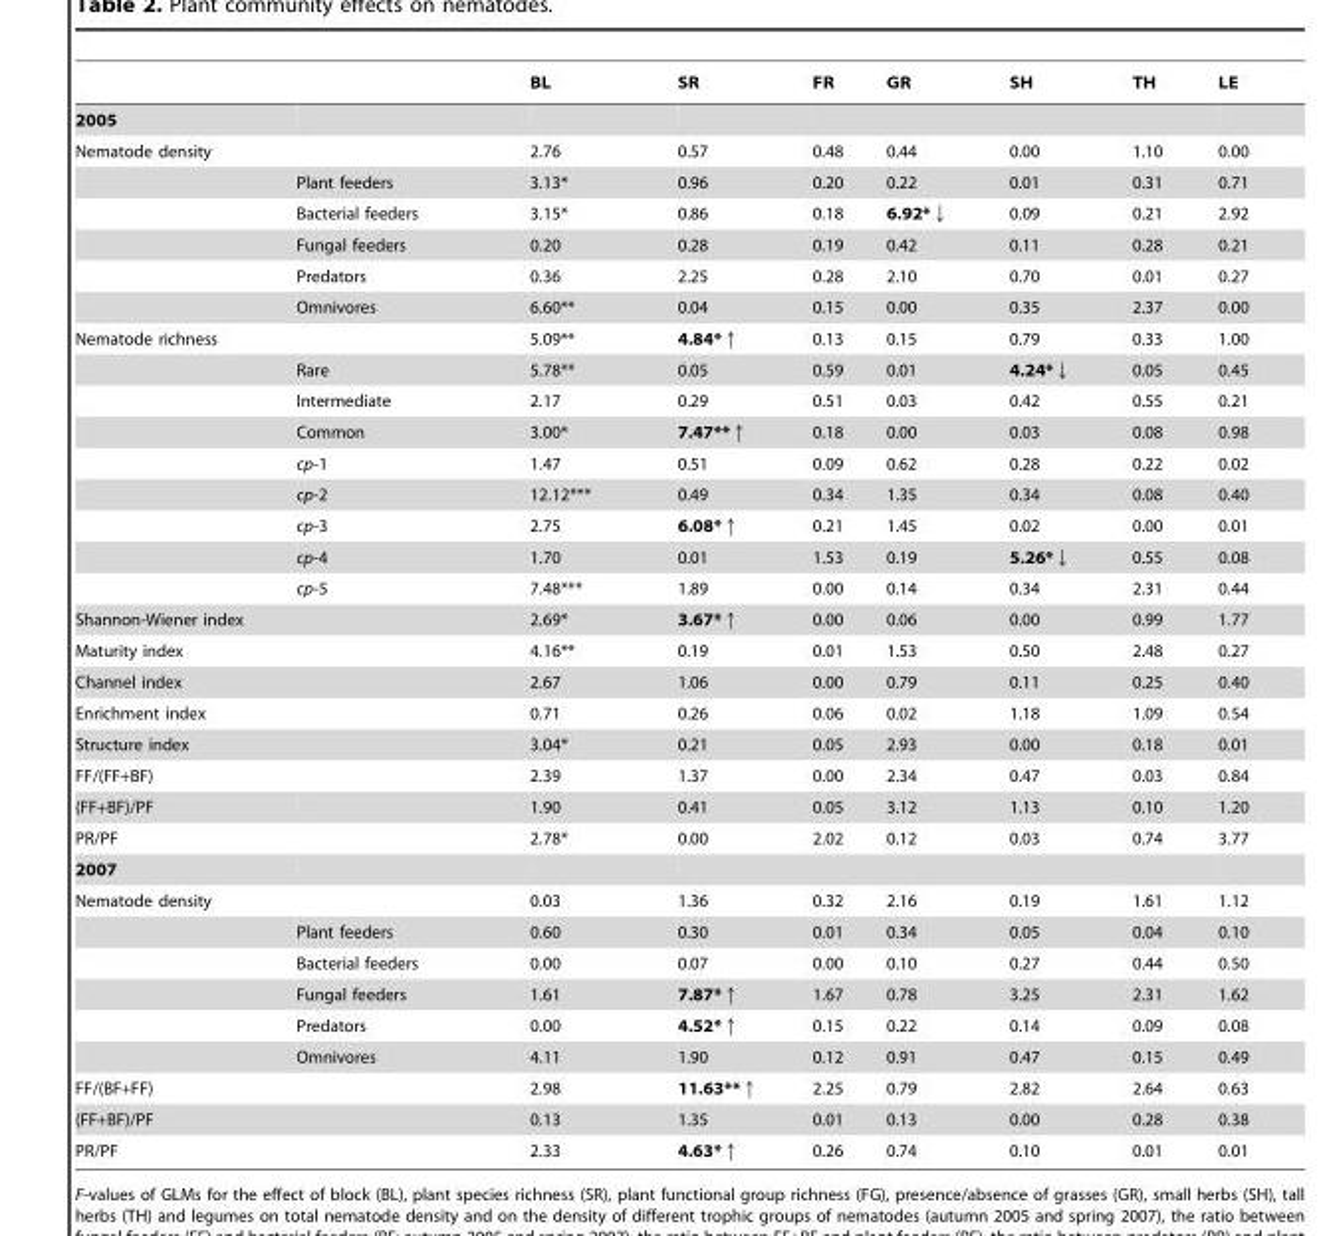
<table><thead><tr><td></td><td></td><td>BL</td><td>SR</td><td>FR</td><td>GR</td><td>SH</td><td>TH</td><td>LE</td></tr></thead><tbody><tr><td colspan="9">2005</td></tr><tr><td colspan="2">Nematode density</td><td>2.76</td><td>0.57</td><td>0.48</td><td>0.44</td><td>0.00</td><td>1.10</td><td>0.00</td></tr><tr><td></td><td>Plant feeders</td><td>3.13*</td><td>0.96</td><td>0.20</td><td>0.22</td><td>0.01</td><td>0.31</td><td>0.71</td></tr><tr><td></td><td>Bacterial feeders</td><td>3.15*</td><td>0.86</td><td>0.18</td><td>6.92*↓</td><td>0.09</td><td>0.21</td><td>2.92</td></tr><tr><td></td><td>Fungal feeders</td><td>0.20</td><td>0.28</td><td>0.19</td><td>0.42</td><td>0.11</td><td>0.28</td><td>0.21</td></tr><tr><td></td><td>Predators</td><td>0.36</td><td>2.25</td><td>0.28</td><td>2.10</td><td>0.70</td><td>0.01</td><td>0.27</td></tr><tr><td></td><td>Omnivores</td><td>6.60**</td><td>0.04</td><td>0.15</td><td>0.00</td><td>0.35</td><td>2.37</td><td>0.00</td></tr><tr><td colspan="2">Nematode richness</td><td>5.09**</td><td>4.84*↑</td><td>0.13</td><td>0.15</td><td>0.79</td><td>0.33</td><td>1.00</td></tr><tr><td></td><td>Rare</td><td>5.78**</td><td>0.05</td><td>0.59</td><td>0.01</td><td>4.24*↓</td><td>0.05</td><td>0.45</td></tr><tr><td></td><td>Intermediate</td><td>2.17</td><td>0.29</td><td>0.51</td><td>0.03</td><td>0.42</td><td>0.55</td><td>0.21</td></tr><tr><td></td><td>Common</td><td>3.00*</td><td>7.47**↑</td><td>0.18</td><td>0.00</td><td>0.03</td><td>0.08</td><td>0.98</td></tr><tr><td></td><td>cp-1</td><td>1.47</td><td>0.51</td><td>0.09</td><td>0.62</td><td>0.28</td><td>0.22</td><td>0.02</td></tr><tr><td></td><td>cp-2</td><td>12.12***</td><td>0.49</td><td>0.34</td><td>1.35</td><td>0.34</td><td>0.08</td><td>0.40</td></tr><tr><td></td><td>cp-3</td><td>2.75</td><td>6.08*↑</td><td>0.21</td><td>1.45</td><td>0.02</td><td>0.00</td><td>0.01</td></tr><tr><td></td><td>cp-4</td><td>1.70</td><td>0.01</td><td>1.53</td><td>0.19</td><td>5.26*↓</td><td>0.55</td><td>0.08</td></tr><tr><td></td><td>cp-5</td><td>7.48***</td><td>1.89</td><td>0.00</td><td>0.14</td><td>0.34</td><td>2.31</td><td>0.44</td></tr><tr><td colspan="2">Shannon-Wiener index</td><td>2.69*</td><td>3.67*↑</td><td>0.00</td><td>0.06</td><td>0.00</td><td>0.99</td><td>1.77</td></tr><tr><td colspan="2">Maturity index</td><td>4.16**</td><td>0.19</td><td>0.01</td><td>1.53</td><td>0.50</td><td>2.48</td><td>0.27</td></tr><tr><td colspan="2">Channel index</td><td>2.67</td><td>1.06</td><td>0.00</td><td>0.79</td><td>0.11</td><td>0.25</td><td>0.40</td></tr><tr><td colspan="2">Enrichment index</td><td>0.71</td><td>0.26</td><td>0.06</td><td>0.02</td><td>1.18</td><td>1.09</td><td>0.54</td></tr><tr><td colspan="2">Structure index</td><td>3.04*</td><td>0.21</td><td>0.05</td><td>2.93</td><td>0.00</td><td>0.18</td><td>0.01</td></tr><tr><td colspan="2">FF/(FF+BF)</td><td>2.39</td><td>1.37</td><td>0.00</td><td>2.34</td><td>0.47</td><td>0.03</td><td>0.84</td></tr><tr><td>(FF+BF)/PF</td><td></td><td>1.90</td><td>0.41</td><td>0.05</td><td>3.12</td><td>1.13</td><td>0.10</td><td>1.20</td></tr><tr><td>PR/PF</td><td></td><td>2.78*</td><td>0.00</td><td>2.02</td><td>0.12</td><td>0.03</td><td>0.74</td><td>3.77</td></tr><tr><td colspan="9">2007</td></tr><tr><td colspan="2">Nematode density</td><td>0.03</td><td>1.36</td><td>0.32</td><td>2.16</td><td>0.19</td><td>1.61</td><td>1.12</td></tr><tr><td></td><td>Plant feeders</td><td>0.60</td><td>0.30</td><td>0.01</td><td>0.34</td><td>0.05</td><td>0.04</td><td>0.10</td></tr><tr><td></td><td>Bacterial feeders</td><td>0.00</td><td>0.07</td><td>0.00</td><td>0.10</td><td>0.27</td><td>0.44</td><td>0.50</td></tr><tr><td></td><td>Fungal feeders</td><td>1.61</td><td>7.87*↑</td><td>1.67</td><td>0.78</td><td>3.25</td><td>2.31</td><td>1.62</td></tr><tr><td></td><td>Predators</td><td>0.00</td><td>4.52*↑</td><td>0.15</td><td>0.22</td><td>0.14</td><td>0.09</td><td>0.08</td></tr><tr><td></td><td>Omnivores</td><td>4.11</td><td>1.90</td><td>0.12</td><td>0.91</td><td>0.47</td><td>0.15</td><td>0.49</td></tr><tr><td>FF/(BF+FF)</td><td></td><td>2.98</td><td>11.63**↑</td><td>2.25</td><td>0.79</td><td>2.82</td><td>2.64</td><td>0.63</td></tr><tr><td colspan="2">(FF+BF)/PF</td><td>0.13</td><td>1.35</td><td>0.01</td><td>0.13</td><td>0.00</td><td>0.28</td><td>0.38</td></tr><tr><td colspan="2">PR/PF</td><td>2.33</td><td>4.63*↑</td><td>0.26</td><td>0.74</td><td>0.10</td><td>0.01</td><td>0.01</td></tr></tbody></table>